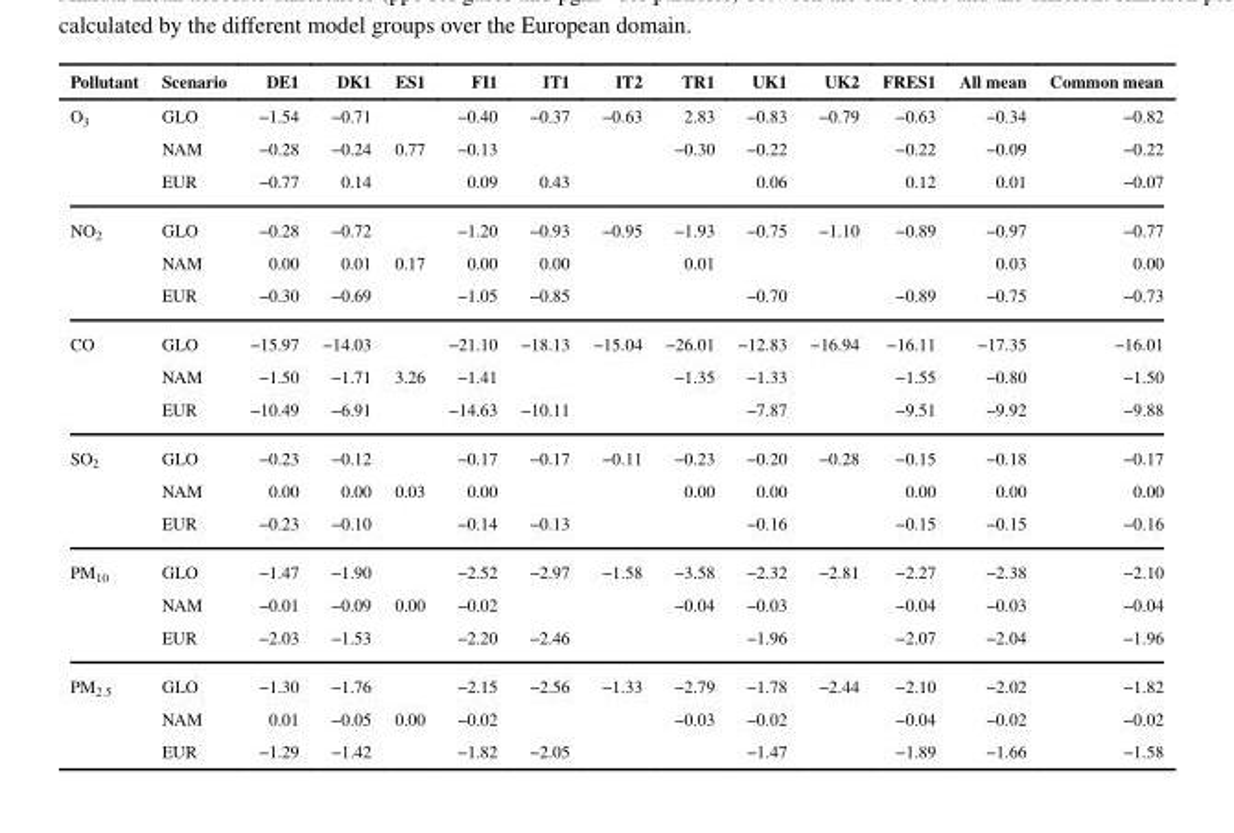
<table><thead><tr><td>Pollutant</td><td>Scenario</td><td>DE1</td><td>DK1</td><td>ES1</td><td>FI1</td><td>IT1</td><td>IT2</td><td>TR1</td><td>UK1</td><td>UK2</td><td>FRES1</td><td>All mean</td><td>Common mean</td></tr></thead><tbody><tr><td rowspan="3">O<sub>3</sub></td><td>GLO</td><td>−1.54</td><td>−0.71</td><td></td><td>−0.40</td><td>−0.37</td><td>−0.63</td><td>2.83</td><td>−0.83</td><td>−0.79</td><td>−0.63</td><td>−0.34</td><td>−0.82</td></tr><tr><td>NAM</td><td>−0.28</td><td>−0.24</td><td>0.77</td><td>−0.13</td><td></td><td></td><td>−0.30</td><td>−0.22</td><td></td><td>−0.22</td><td>−0.09</td><td>−0.22</td></tr><tr><td>EUR</td><td>−0.77</td><td>0.14</td><td></td><td>0.09</td><td>0.43</td><td></td><td></td><td>0.06</td><td></td><td>0.12</td><td>0.01</td><td>−0.07</td></tr><tr><td rowspan="3">NO<sub>2</sub></td><td>GLO</td><td>−0.28</td><td>−0.72</td><td></td><td>−1.20</td><td>−0.93</td><td>−0.95</td><td>−1.93</td><td>−0.75</td><td>−1.10</td><td>−0.89</td><td>−0.97</td><td>−0.77</td></tr><tr><td>NAM</td><td>0.00</td><td>0.01</td><td>0.17</td><td>0.00</td><td>0.00</td><td></td><td>0.01</td><td></td><td></td><td></td><td>0.03</td><td>0.00</td></tr><tr><td>EUR</td><td>−0.30</td><td>−0.69</td><td></td><td>−1.05</td><td>−0.85</td><td></td><td></td><td>−0.70</td><td></td><td>−0.89</td><td>−0.75</td><td>−0.73</td></tr><tr><td rowspan="3">CO</td><td>GLO</td><td>−15.97</td><td>−14.03</td><td></td><td>−21.10</td><td>−18.13</td><td>−15.04</td><td>−26.01</td><td>−12.83</td><td>−16.94</td><td>−16.11</td><td>−17.35</td><td>−16.01</td></tr><tr><td>NAM</td><td>−1.50</td><td>−1.71</td><td>3.26</td><td>−1.41</td><td></td><td></td><td>−1.35</td><td>−1.33</td><td></td><td>−1.55</td><td>−0.80</td><td>−1.50</td></tr><tr><td>EUR</td><td>−10.49</td><td>−6.91</td><td></td><td>−14.63</td><td>−10.11</td><td></td><td></td><td>−7.87</td><td></td><td>−9.51</td><td>−9.92</td><td>−9.88</td></tr><tr><td rowspan="3">SO<sub>2</sub></td><td>GLO</td><td>−0.23</td><td>−0.12</td><td></td><td>−0.17</td><td>−0.17</td><td>−0.11</td><td>−0.23</td><td>−0.20</td><td>−0.28</td><td>−0.15</td><td>−0.18</td><td>−0.17</td></tr><tr><td>NAM</td><td>0.00</td><td>0.00</td><td>0.03</td><td>0.00</td><td></td><td></td><td>0.00</td><td>0.00</td><td></td><td>0.00</td><td>0.00</td><td>0.00</td></tr><tr><td>EUR</td><td>−0.23</td><td>−0.10</td><td></td><td>−0.14</td><td>−0.13</td><td></td><td></td><td>−0.16</td><td></td><td>−0.15</td><td>−0.15</td><td>−0.16</td></tr><tr><td rowspan="3">PM<sub>10</sub></td><td>GLO</td><td>−1.47</td><td>−1.90</td><td></td><td>−2.52</td><td>−2.97</td><td>−1.58</td><td>−3.58</td><td>−2.32</td><td>−2.81</td><td>−2.27</td><td>−2.38</td><td>−2.10</td></tr><tr><td>NAM</td><td>−0.01</td><td>−0.09</td><td>0.00</td><td>−0.02</td><td></td><td></td><td>−0.04</td><td>−0.03</td><td></td><td>−0.04</td><td>−0.03</td><td>−0.04</td></tr><tr><td>EUR</td><td>−2.03</td><td>−1.53</td><td></td><td>−2.20</td><td>−2.46</td><td></td><td></td><td>−1.96</td><td></td><td>−2.07</td><td>−2.04</td><td>−1.96</td></tr><tr><td rowspan="3">PM<sub>2.5</sub></td><td>GLO</td><td>−1.30</td><td>−1.76</td><td></td><td>−2.15</td><td>−2.56</td><td>−1.33</td><td>−2.79</td><td>−1.78</td><td>−2.44</td><td>−2.10</td><td>−2.02</td><td>−1.82</td></tr><tr><td>NAM</td><td>0.01</td><td>−0.05</td><td>0.00</td><td>−0.02</td><td></td><td></td><td>−0.03</td><td>−0.02</td><td></td><td>−0.04</td><td>−0.02</td><td>−0.02</td></tr><tr><td>EUR</td><td>−1.29</td><td>−1.42</td><td></td><td>−1.82</td><td>−2.05</td><td></td><td></td><td>−1.47</td><td></td><td>−1.89</td><td>−1.66</td><td>−1.58</td></tr></tbody></table>